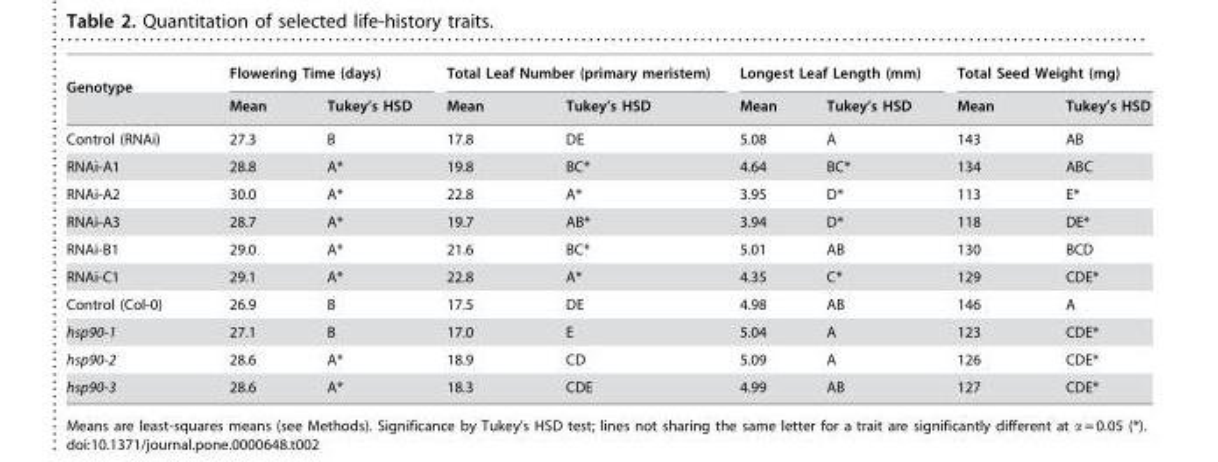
<table><thead><tr><td rowspan="2">Genotype</td><td colspan="2">Flowering Time (days)</td><td colspan="2">Total Leaf Number (primary meristem)</td><td colspan="2">Longest Leaf Length (mm)</td><td colspan="2">Total Seed Weight (mg)</td></tr><tr><td>Mean</td><td>Tukey’s HSD</td><td>Mean</td><td>Tukey’s HSD</td><td>Mean</td><td>Tukey’s HSD</td><td>Mean</td><td>Tukey’s HSD</td></tr></thead><tbody><tr><td>Control (RNAi)</td><td>27.3</td><td>B</td><td>17.8</td><td>DE</td><td>5.08</td><td>A</td><td>143</td><td>AB</td></tr><tr><td>RNAi-A1</td><td>28.8</td><td>A*</td><td>19.8</td><td>BC*</td><td>4.64</td><td>BC*</td><td>134</td><td>ABC</td></tr><tr><td>RNAi-A2</td><td>30.0</td><td>A*</td><td>22.8</td><td>A*</td><td>3.95</td><td>D*</td><td>113</td><td>E*</td></tr><tr><td>RNAi-A3</td><td>28.7</td><td>A*</td><td>19.7</td><td>AB*</td><td>3.94</td><td>D*</td><td>118</td><td>DE*</td></tr><tr><td>RNAi-B1</td><td>29.0</td><td>A*</td><td>21.6</td><td>BC*</td><td>5.01</td><td>AB</td><td>130</td><td>BCD</td></tr><tr><td>RNAi-C1</td><td>29.1</td><td>A*</td><td>22.8</td><td>A*</td><td>4.35</td><td>C*</td><td>129</td><td>CDE*</td></tr><tr><td>Control (Col-0)</td><td>26.9</td><td>B</td><td>17.5</td><td>DE</td><td>4.98</td><td>AB</td><td>146</td><td>A</td></tr><tr><td>hsp90-1</td><td>27.1</td><td>B</td><td>17.0</td><td>E</td><td>5.04</td><td>A</td><td>123</td><td>CDE*</td></tr><tr><td>hsp90-2</td><td>28.6</td><td>A*</td><td>18.9</td><td>CD</td><td>5.09</td><td>A</td><td>126</td><td>CDE*</td></tr><tr><td>hsp90-3</td><td>28.6</td><td>A*</td><td>18.3</td><td>CDE</td><td>4.99</td><td>AB</td><td>127</td><td>CDE*</td></tr></tbody></table>